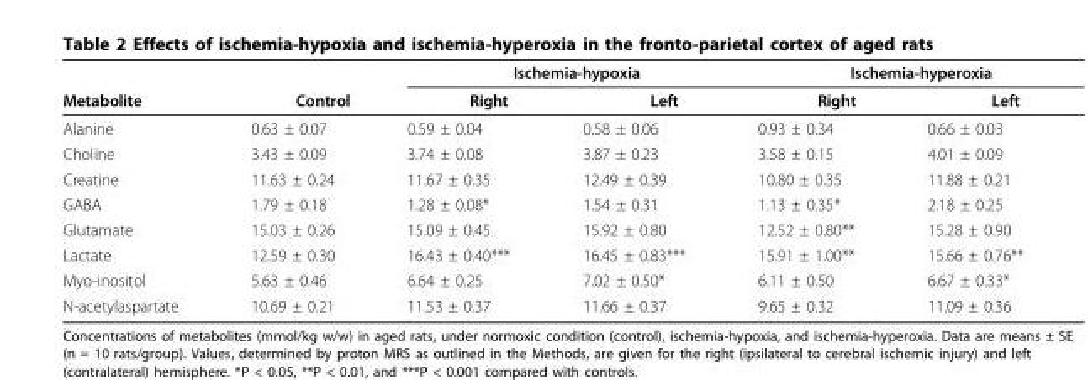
<table><thead><tr><td rowspan="2">Metabolite</td><td rowspan="2">Control</td><td colspan="2">Ischemia-hypoxia</td><td colspan="2">Ischemia-hyperoxia</td></tr><tr><td>Right</td><td>Left</td><td>Right</td><td>Left</td></tr></thead><tbody><tr><td>Alanine</td><td>0.63 ± 0.07</td><td>0.59 ± 0.04</td><td>0.58 ± 0.06</td><td>0.93 ± 0.34</td><td>0.66 ± 0.03</td></tr><tr><td>Choline</td><td>3.43 ± 0.09</td><td>3.74 ± 0.08</td><td>3.87 ± 0.23</td><td>3.58 ± 0.15</td><td>4.01 ± 0.09</td></tr><tr><td>Creatine</td><td>11.63 ± 0.24</td><td>11.67 ± 0.35</td><td>12.49 ± 0.39</td><td>10.80 ± 0.35</td><td>11.88 ± 0.21</td></tr><tr><td>GABA</td><td>1.79 ± 0.18</td><td>1.28 ± 0.08*</td><td>1.54 ± 0.31</td><td>1.13 ± 0.35*</td><td>2.18 ± 0.25</td></tr><tr><td>Glutamate</td><td>15.03 ± 0.26</td><td>15.09 ± 0.45</td><td>15.92 ± 0.80</td><td>12.52 ± 0.80**</td><td>15.28 ± 0.90</td></tr><tr><td>Lactate</td><td>12.59 ± 0.30</td><td>16.43 ± 0.40***</td><td>16.45 ± 0.83***</td><td>15.91 ± 1.00**</td><td>15.66 ± 0.76**</td></tr><tr><td>Myo-inositol</td><td>5.63 ± 0.46</td><td>6.64 ± 0.25</td><td>7.02 ± 0.50*</td><td>6.11 ± 0.50</td><td>6.67 ± 0.33*</td></tr><tr><td>N-acetylaspartate</td><td>10.69 ± 0.21</td><td>11.53 ± 0.37</td><td>11.66 ± 0.37</td><td>9.65 ± 0.32</td><td>11.09 ± 0.36</td></tr></tbody></table>